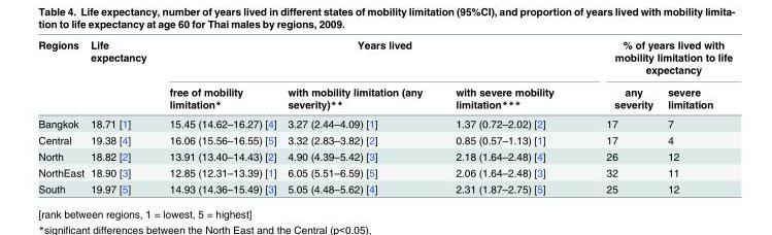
<table><thead><tr><td rowspan="2">Regions</td><td rowspan="2">Life expectancy</td><td colspan="3">Years lived</td><td colspan="2">% of years lived with mobility limitation to life expectancy</td></tr><tr><td>free of mobility limitation*</td><td>with mobility limitation (any severity)**</td><td>with severe mobility limitation***</td><td>any severity</td><td>severe limitation</td></tr></thead><tbody><tr><td>Bangkok</td><td>18.71 [1]</td><td>15.45 (14.62–16.27) [4]</td><td>3.27 (2.44–4.09) [1]</td><td>1.37 (0.72–2.02) [2]</td><td>17</td><td>7</td></tr><tr><td>Central</td><td>19.38 [4]</td><td>16.06 (15.56–16.55) [5]</td><td>3.32 (2.83–3.82) [2]</td><td>0.85 (0.57–1.13) [1]</td><td>17</td><td>4</td></tr><tr><td>North</td><td>18.82 [2]</td><td>13.91 (13.40–14.43) [2]</td><td>4.90 (4.39–5.42) [3]</td><td>2.18 (1.64–2.48) [4]</td><td>26</td><td>12</td></tr><tr><td>NorthEast</td><td>18.90 [3]</td><td>12.85 (12.31–13.39) [1]</td><td>6.05 (5.51–6.59) [5]</td><td>2.06 (1.64–2.48) [3]</td><td>32</td><td>11</td></tr><tr><td>South</td><td>19.97 [5]</td><td>14.93 (14.36–15.49) [3]</td><td>5.05 (4.48–5.62) [4]</td><td>2.31 (1.87–2.75) [5]</td><td>25</td><td>12</td></tr></tbody></table>